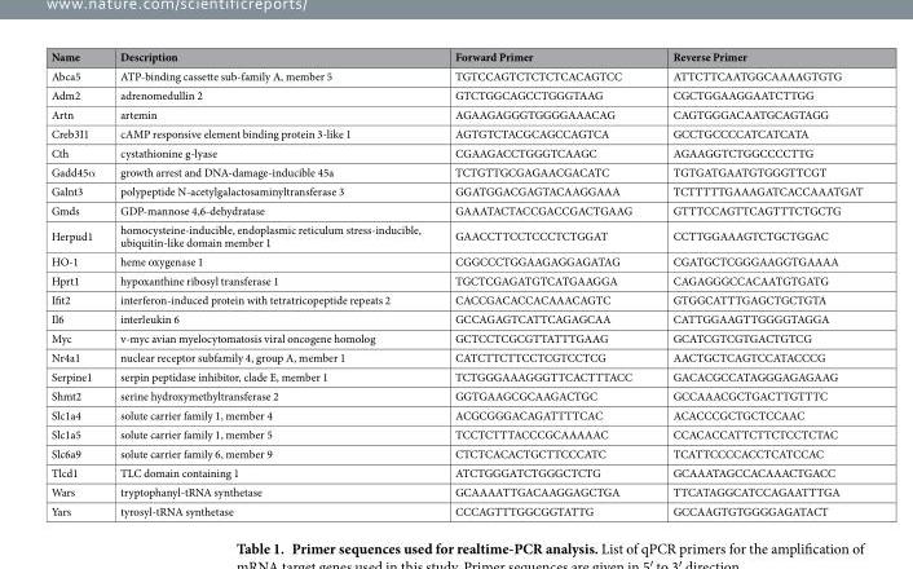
<table><thead><tr><td>Name</td><td>Description</td><td>Forward Primer</td><td>Reverse Primer</td></tr></thead><tbody><tr><td>Abca5</td><td>ATP-binding cassette sub-family A, member 5</td><td>TGTCCAGTCTCTCTCACAGTCC</td><td>ATTCTTCAATGGCAAAAGTGTG</td></tr><tr><td>Adm2</td><td>adrenomedullin 2</td><td>GTCTGGCAGCCTGGGTAAG</td><td>CGCTGGAAGGAATCTTGG</td></tr><tr><td>Artn</td><td>artemin</td><td>AGAAGAGGGTGGGGAAACAG</td><td>CAGTGGGACAATGCAGTAGG</td></tr><tr><td>Creb3I1</td><td>cAMP responsive element binding protein 3-like 1</td><td>AGTGTCTACGCAGCCAGTCA</td><td>GCCTGCCCCATCATCATA</td></tr><tr><td>Cth</td><td>cystathionine g-lyase</td><td>CGAAGACCTGGGTCAAGC</td><td>AGAAGGTCTGGCCCCTTG</td></tr><tr><td>Gadd45α</td><td>growth arrest and DNA-damage-inducible 45a</td><td>TCTGTTGCGAGAACGACATC</td><td>TGTGATGAATGTGGGTTCGT</td></tr><tr><td>Galnt3</td><td>polypeptide N-acetylgalactosaminyltransferase 3</td><td>GGATGGACGAGTACAAGGAAA</td><td>TCTTTTTGAAAGATCACCAAATGAT</td></tr><tr><td>Gmds</td><td>GDP-mannose 4,6-dehydratase</td><td>GAAATACTACCGACCGACTGAAG</td><td>GTTTCCAGTTCAGTTTCTGCTG</td></tr><tr><td>Herpud1</td><td>homocysteine-inducible, endoplasmic reticulum stress-inducible, ubiquitin-like domain member 1</td><td>GAACCTTCCTCCCTCTGGAT</td><td>CCTTGGAAAGTCTGCTGGAC</td></tr><tr><td>HO-1</td><td>heme oxygenase 1</td><td>CGGCCCTGGAAGAGGAGATAG</td><td>CGATGCTCGGGAAGGTGAAAA</td></tr><tr><td>Hprt1</td><td>hypoxanthine ribosyl transferase 1</td><td>TGCTCGAGATGTCATGAAGGA</td><td>CAGAGGGCCACAATGTGATG</td></tr><tr><td>Ifit2</td><td>interferon-induced protein with tetratricopeptide repeats 2</td><td>CACCGACACCACAAACAGTC</td><td>GTGGCATTTGAGCTGCTGTA</td></tr><tr><td>Il6</td><td>interleukin 6</td><td>GCCAGAGTCATTCAGAGCAA</td><td>CATTGGAAGTTGGGGTAGGA</td></tr><tr><td>Myc</td><td>v-myc avian myelocytomatosis viral oncogene homolog</td><td>GCTCCTCGCGTTATTTGAAG</td><td>GCATCGTCGTGACTGTCG</td></tr><tr><td>Nr4a1</td><td>nuclear receptor subfamily 4, group A, member 1</td><td>CATCTTCTTCCTCGTCCTCG</td><td>AACTGCTCAGTCCATACCCG</td></tr><tr><td>Serpine1</td><td>serpin peptidase inhibitor, clade E, member 1</td><td>TCTGGGAAAGGGTTCACTTTACC</td><td>GACACGCCATAGGGAGAGAAG</td></tr><tr><td>Shmt2</td><td>serine hydroxymethyltransferase 2</td><td>GGTGAAGCGCAAGACTGC</td><td>GCCAAACGCTGACTTGTTTC</td></tr><tr><td>Slc1a4</td><td>solute carrier family 1, member 4</td><td>ACGCGGGACAGATTTTCAC</td><td>ACACCCGCTGCTCCAAC</td></tr><tr><td>Slc1a5</td><td>solute carrier family 1, member 5</td><td>TCCTCTTTACCCGCAAAAAC</td><td>CCACACCATTCTTCTCCTCTAC</td></tr><tr><td>Slc6a9</td><td>solute carrier family 6, member 9</td><td>CTCTCACACTGCTTCCCATC</td><td>TCATTCCCCACCTCATCCAC</td></tr><tr><td>Tlcd1</td><td>TLC domain containing 1</td><td>ATCTGGGATCTGGGCTCTG</td><td>GCAAATAGCCACAAACTGACC</td></tr><tr><td>Wars</td><td>tryptophanyl-tRNA synthetase</td><td>GCAAAATTGACAAGGAGCTGA</td><td>TTCATAGGCATCCAGAATTTGA</td></tr><tr><td>Yars</td><td>tyrosyl-tRNA synthetase</td><td>CCCAGTTTGGCGGTATTG</td><td>GCCAAGTGTGGGGAGATACT</td></tr></tbody></table>